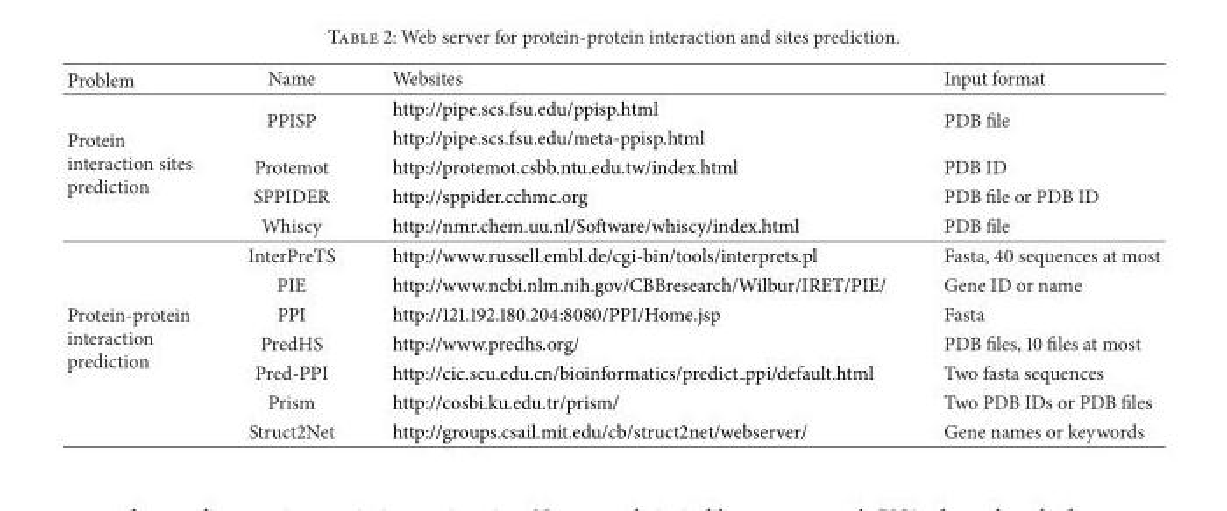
<table><thead><tr><td>Problem</td><td>Name</td><td>Websites</td><td>Input format</td></tr></thead><tbody><tr><td rowspan="5">Protein interaction sites prediction</td><td rowspan="2">PPISP</td><td>http://pipe.scs.fsu.edu/ppisp.html</td><td rowspan="2">PDB file</td></tr><tr><td>http://pipe.scs.fsu.edu/meta-ppisp.html</td></tr><tr><td>Protemot</td><td>http://protemot.csbb.ntu.edu.tw/index.html</td><td>PDB ID</td></tr><tr><td>SPPIDER</td><td>http://sppider.cchmc.org</td><td>PDB file or PDB ID</td></tr><tr><td>Whiscy</td><td>http://nmr.chem.uu.nl/Software/whiscy/index.html</td><td>PDB file</td></tr><tr><td rowspan="7">Protein-protein interaction prediction</td><td>InterPreTS</td><td>http://www.russell.embl.de/cgi-bin/tools/interprets.pl</td><td>Fasta, 40 sequences at most</td></tr><tr><td>PIE</td><td>http://www.ncbi.nlm.nih.gov/CBBresearch/Wilbur/IRET/PIE/</td><td>Gene ID or name</td></tr><tr><td>PPI</td><td>http://121.192.180.204:8080/PPI/Home.jsp</td><td>Fasta</td></tr><tr><td>PredHS</td><td>http://www.predhs.org/</td><td>PDB files, 10 files at most</td></tr><tr><td>Pred-PPI</td><td>http://cic.scu.edu.cn/bioinformatics/predict ppi/default.html</td><td>Two fasta sequences</td></tr><tr><td>Prism</td><td>http://cosbi.ku.edu.tr/prism/</td><td>Two PDB IDs or PDB files</td></tr><tr><td>Struct2Net</td><td>http://groups.csail.mit.edu/cb/struct2net/webserver/</td><td>Gene names or keywords</td></tr></tbody></table>